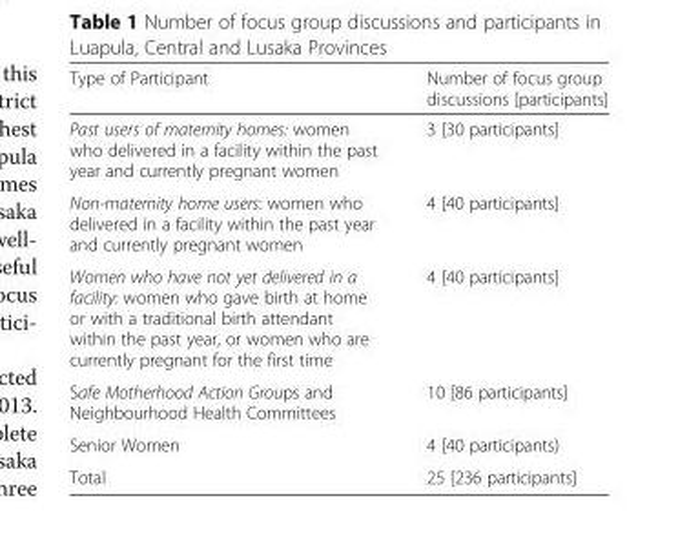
<table><thead><tr><td>Type of Participant</td><td>Number of focus group discussions [participants]</td></tr></thead><tbody><tr><td>Past users of maternity homes: women who delivered in a facility within the past year and currently pregnant women</td><td>3 [30 participants]</td></tr><tr><td>Non-maternity home users: women who delivered in a facility within the past year and currently pregnant women</td><td>4 [40 participants]</td></tr><tr><td>Women who have not yet delivered in a facility: women who gave birth at home or with a traditional birth attendant within the past year, or women who are currently pregnant for the first time</td><td>4 [40 participants]</td></tr><tr><td>Safe Motherhood Action Groups and Neighbourhood Health Committees</td><td>10 [86 participants]</td></tr><tr><td>Senior Women</td><td>4 [40 participants)</td></tr><tr><td>Total</td><td>25 [236 participants]</td></tr></tbody></table>